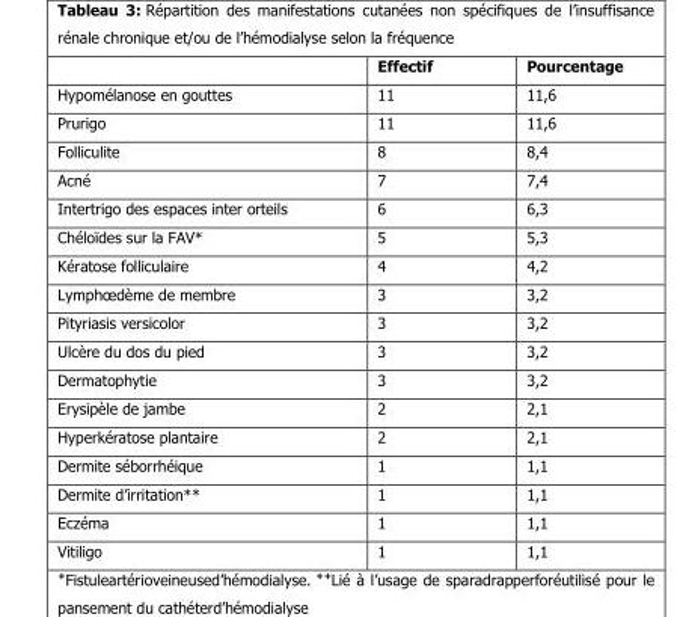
<table><thead><tr><td></td><td>Effectif</td><td>Pourcentage</td></tr></thead><tbody><tr><td>Hypomélanose en gouttes</td><td>11</td><td>11,6</td></tr><tr><td>Prurigo</td><td>11</td><td>11,6</td></tr><tr><td>Folliculite</td><td>8</td><td>8,4</td></tr><tr><td>Acné</td><td>7</td><td>7,4</td></tr><tr><td>Intertrigo des espaces inter orteils</td><td>6</td><td>6,3</td></tr><tr><td>Chéloïdes sur la FAV*</td><td>5</td><td>5,3</td></tr><tr><td>Kératose folliculaire</td><td>4</td><td>4,2</td></tr><tr><td>Lymphœdème de membre</td><td>3</td><td>3,2</td></tr><tr><td>Pityriasis versicolor</td><td>3</td><td>3,2</td></tr><tr><td>Ulcère du dos du pied</td><td>3</td><td>3,2</td></tr><tr><td>Dermatophytie</td><td>3</td><td>3,2</td></tr><tr><td>Erysipèle de jambe</td><td>2</td><td>2,1</td></tr><tr><td>Hyperkératose plantaire</td><td>2</td><td>2,1</td></tr><tr><td>Dermite séborrhéique</td><td>1</td><td>1,1</td></tr><tr><td>Dermite d’irritation**</td><td>1</td><td>1,1</td></tr><tr><td>Eczéma</td><td>1</td><td>1,1</td></tr><tr><td>Vitiligo</td><td>1</td><td>1,1</td></tr></tbody></table>